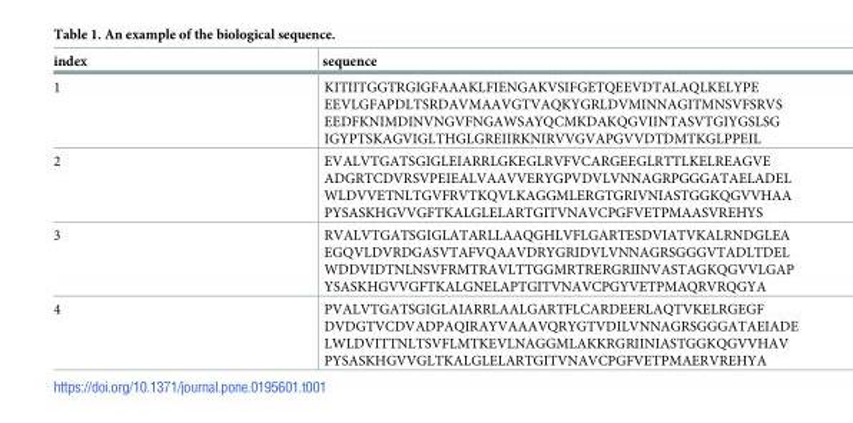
<table><thead><tr><td>index</td><td>sequence</td></tr></thead><tbody><tr><td>1</td><td>KITIITGGTRGIGFAAAKLFIENGAKVSIFGETQEEVDTALAQLKELYPE EEVLGFAPDLTSRDAVMAAVGTVAQKYGRLDVMINNAGITMNSVFSRVS EEDFKNIMDINVNGVFNGAWSAYQCMKDAKQGVIINTASVTGIYGSLSG IGYPTSKAGVIGLTHGLGREIIRKNIRVVGVAPGVVDTDMTKGLPPEIL</td></tr><tr><td>2</td><td>EVALVTGATSGIGLEIARRLGKEGLRVFVCARGEEGLRTTLKELREAGVE ADGRTCDVRSVPEIEALVAAVVERYGPVDVLVNNAGRPGGGATAELADEL WLDVVETNLTGVFRVTKQVLKAGGMLERGTGRIVNIASTGGKQGVVHAA PYSASKHGVVGFTKALGLELARTGITVNAVCPGFVETPMAASVREHYS</td></tr><tr><td>3</td><td>RVALVTGATSGIGLATARLLAAQGHLVFLGARTESDVIATVKALRNDGLEA EGQVLDVRDGASVTAFVQAAVDRYGRIDVLVNNAGRSGGGVTADLTDEL WDDVIDTNLNSVFRMTRAVLTTGGMRTRERGRIINVASTAGKQGVVLGAP YSASKHGVVGFTKALGNELAPTGITVNAVCPGYVETPMAQRVRQGYA</td></tr><tr><td>4</td><td>PVALVTGATSGIGLAIARRLAALGARTFLCARDEERLAQTVKELRGEGF DVDGTVCDVADPAQIRAYVAAAVQRYGTVDILVNNAGRSGGGATAEIADE LWLDVITTNLTSVFLMTKEVLNAGGMLAKKRGRIINIASTGGKQGVVHAV PYSASKHGVVGLTKALGLELARTGITVNAVCPGFVETPMAERVREHYA</td></tr></tbody></table>